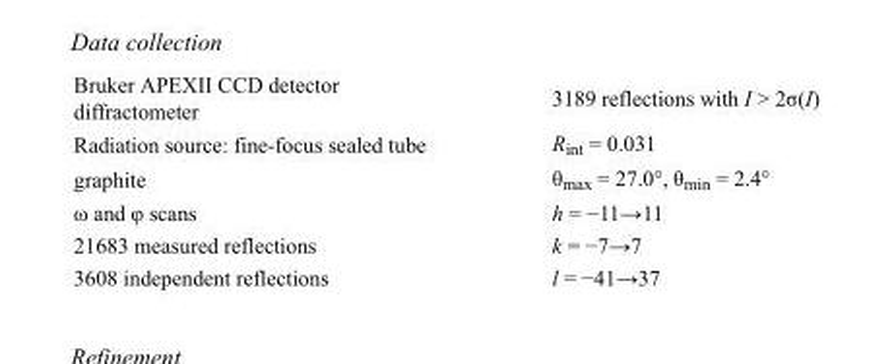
<table><tbody><tr><td>Bruker APEXII CCD detector diffractometer</td><td>3189 reflections with I &gt; 2σ(I)</td></tr><tr><td>Radiation source: fine-focus sealed tube</td><td>R<sub>int</sub> = 0.031</td></tr><tr><td>graphite</td><td>θ<sub>max</sub> = 27.0°, θ<sub>min</sub> = 2.4°</td></tr><tr><td>ω and φ scans</td><td>h = −11→11</td></tr><tr><td>21683 measured reflections</td><td>k = −7→7</td></tr><tr><td>3608 independent reflections</td><td>l = −41→37</td></tr></tbody></table>